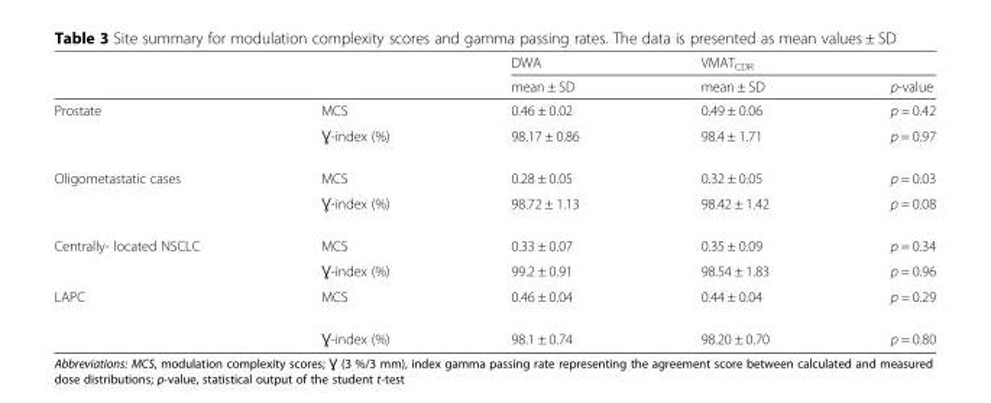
<table><thead><tr><td rowspan="2"></td><td rowspan="2"></td><td rowspan="2">DWA mean ± SD</td><td rowspan="2">VMAT<sub>CDR</sub> mean ± SD</td><td rowspan="2">p-value</td></tr><tr></tr></thead><tbody><tr><td rowspan="2">Prostate</td><td>MCS</td><td>0.46 ± 0.02</td><td>0.49 ± 0.06</td><td>p = 0.42</td></tr><tr><td>Ɣ-index (%)</td><td>98.17 ± 0.86</td><td>98.4 ± 1.71</td><td>p = 0.97</td></tr><tr><td rowspan="2">Oligometastatic cases</td><td>MCS</td><td>0.28 ± 0.05</td><td>0.32 ± 0.05</td><td>p = 0.03</td></tr><tr><td>Ɣ-index (%)</td><td>98.72 ± 1.13</td><td>98.42 ± 1.42</td><td>p = 0.08</td></tr><tr><td rowspan="2">Centrally- located NSCLC</td><td>MCS</td><td>0.33 ± 0.07</td><td>0.35 ± 0.09</td><td>p = 0.34</td></tr><tr><td>Ɣ-index (%)</td><td>99.2 ± 0.91</td><td>98.54 ± 1.83</td><td>p = 0.96</td></tr><tr><td rowspan="2">LAPC</td><td>MCS</td><td>0.46 ± 0.04</td><td>0.44 ± 0.04</td><td>p = 0.29</td></tr><tr><td>Ɣ-index (%)</td><td>98.1 ± 0.74</td><td>98.20 ± 0.70</td><td>p = 0.80</td></tr></tbody></table>